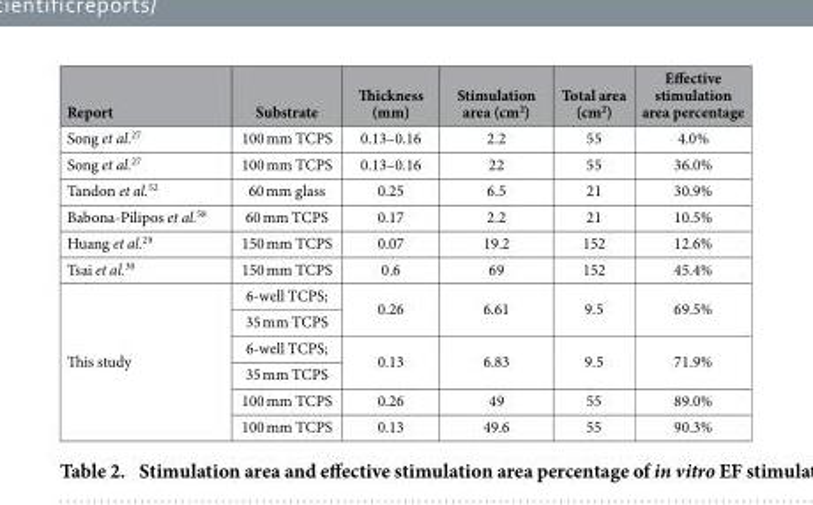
<table><thead><tr><td>Report</td><td>Substrate</td><td>Thickness (mm)</td><td>Stimulation area (cm<sup>2</sup>)</td><td>Total area (cm<sup>2</sup>)</td><td>Effective stimulation area percentage</td></tr></thead><tbody><tr><td>Song et al.<sup>27</sup></td><td>100 mm TCPS</td><td>0.13–0.16</td><td>2.2</td><td>55</td><td>4.0%</td></tr><tr><td>Song et al.<sup>27</sup></td><td>100 mm TCPS</td><td>0.13–0.16</td><td>22</td><td>55</td><td>36.0%</td></tr><tr><td>Tandon et al.<sup>52</sup></td><td>60 mm glass</td><td>0.25</td><td>6.5</td><td>21</td><td>30.9%</td></tr><tr><td>Babona-Pilipos et al.<sup>58</sup></td><td>60 mm TCPS</td><td>0.17</td><td>2.2</td><td>21</td><td>10.5%</td></tr><tr><td>Huang et al.<sup>29</sup></td><td>150 mm TCPS</td><td>0.07</td><td>19.2</td><td>152</td><td>12.6%</td></tr><tr><td>Tsai et al.<sup>30</sup></td><td>150 mm TCPS</td><td>0.6</td><td>69</td><td>152</td><td>45.4%</td></tr><tr><td rowspan="6">This study</td><td>6-well TCPS;</td><td rowspan="2">0.26</td><td rowspan="2">6.61</td><td rowspan="2">9.5</td><td rowspan="2">69.5%</td></tr><tr><td>35 mm TCPS</td></tr><tr><td>6-well TCPS;</td><td rowspan="2">0.13</td><td rowspan="2">6.83</td><td rowspan="2">9.5</td><td rowspan="2">71.9%</td></tr><tr><td>35 mm TCPS</td></tr><tr><td>100 mm TCPS</td><td>0.26</td><td>49</td><td>55</td><td>89.0%</td></tr><tr><td>100 mm TCPS</td><td>0.13</td><td>49.6</td><td>55</td><td>90.3%</td></tr></tbody></table>